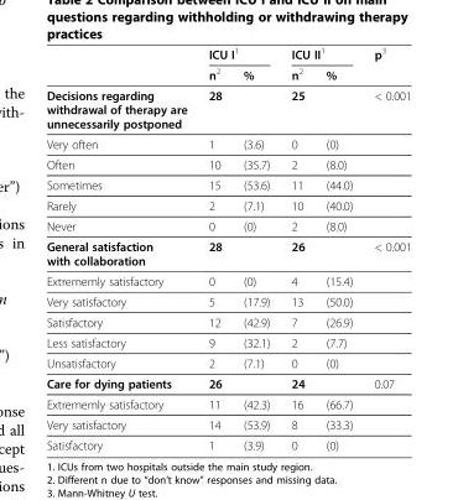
<table><thead><tr><td rowspan="2"></td><td colspan="2">ICU I<sup>1</sup></td><td colspan="2">ICU II<sup>1</sup></td><td rowspan="2">p<sup>3</sup></td></tr><tr><td>n<sup>2</sup></td><td>%</td><td>n<sup>2</sup></td><td>%</td></tr></thead><tbody><tr><td>Decisions regarding withdrawal of therapy are unnecessarily postponed</td><td>28</td><td></td><td>25</td><td></td><td>&lt; 0.001</td></tr><tr><td>Very often</td><td>1</td><td>(3.6)</td><td>0</td><td>(0)</td><td></td></tr><tr><td>Often</td><td>10</td><td>(35.7)</td><td>2</td><td>(8.0)</td><td></td></tr><tr><td>Sometimes</td><td>15</td><td>(53.6)</td><td>11</td><td>(44.0)</td><td></td></tr><tr><td>Rarely</td><td>2</td><td>(7.1)</td><td>10</td><td>(40.0)</td><td></td></tr><tr><td>Never</td><td>0</td><td>(0)</td><td>2</td><td>(8.0)</td><td></td></tr><tr><td>General satisfaction with collaboration</td><td>28</td><td></td><td>26</td><td></td><td>&lt; 0.001</td></tr><tr><td>Extrememly satisfactory</td><td>0</td><td>(0)</td><td>4</td><td>(15.4)</td><td></td></tr><tr><td>Very satisfactory</td><td>5</td><td>(17.9)</td><td>13</td><td>(50.0)</td><td></td></tr><tr><td>Satisfactory</td><td>12</td><td>(42.9)</td><td>7</td><td>(26.9)</td><td></td></tr><tr><td>Less satisfactory</td><td>9</td><td>(32.1)</td><td>2</td><td>(7.7)</td><td></td></tr><tr><td>Unsatisfactory</td><td>2</td><td>(7.1)</td><td>0</td><td>(0)</td><td></td></tr><tr><td>Care for dying patients</td><td>26</td><td></td><td>24</td><td></td><td>0.07</td></tr><tr><td>Extrememly satisfactory</td><td>11</td><td>(42.3)</td><td>16</td><td>(66.7)</td><td></td></tr><tr><td>Very satisfactory</td><td>14</td><td>(53.9)</td><td>8</td><td>(33.3)</td><td></td></tr><tr><td>Satisfactory</td><td>1</td><td>(3.9)</td><td>0</td><td>(0)</td><td></td></tr></tbody></table>